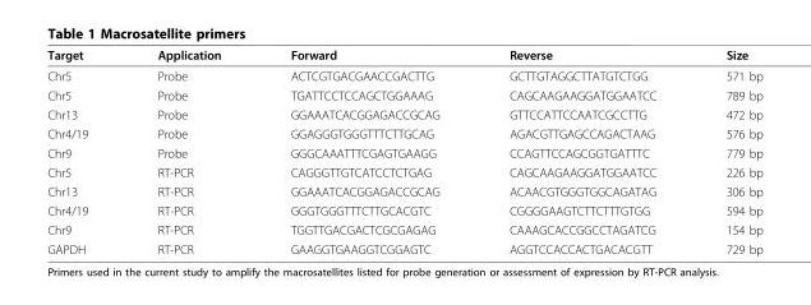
<table><thead><tr><td>Target</td><td>Application</td><td>Forward</td><td>Reverse</td><td>Size</td></tr></thead><tbody><tr><td>Chr5</td><td>Probe</td><td>ACTCGTGACGAACCGACTTG</td><td>GCTTGTAGGCTTATGTCTGG</td><td>571 bp</td></tr><tr><td>Chr5</td><td>Probe</td><td>TGATTCCTCCAGCTGGAAAG</td><td>CAGCAAGAAGGATGGAATCC</td><td>789 bp</td></tr><tr><td>Chr13</td><td>Probe</td><td>GGAAATCACGGAGACCGCAG</td><td>GTTCCATTCCAATCGCCTTG</td><td>472 bp</td></tr><tr><td>Chr4/19</td><td>Probe</td><td>GGAGGGTGGGTTTCTTGCAG</td><td>AGACGTTGAGCCAGACTAAG</td><td>576 bp</td></tr><tr><td>Chr9</td><td>Probe</td><td>GGGCAAATTTCGAGTGAAGG</td><td>CCAGTTCCAGCGGTGATTTC</td><td>779 bp</td></tr><tr><td>Chr5</td><td>RT-PCR</td><td>CAGGGTTGTCATCCTCTGAG</td><td>CAGCAAGAAGGATGGAATCC</td><td>226 bp</td></tr><tr><td>Chr13</td><td>RT-PCR</td><td>GGAAATCACGGAGACCGCAG</td><td>ACAACGTGGGTGGCAGATAG</td><td>306 bp</td></tr><tr><td>Chr4/19</td><td>RT-PCR</td><td>GGGTGGGTTTCTTGCACGTC</td><td>CGGGGAAGTCTTCTTTGTGG</td><td>594 bp</td></tr><tr><td>Chr9</td><td>RT-PCR</td><td>TGGTTGACGACTCGCGAGAG</td><td>CAAAGCACCGGCCTAGATCG</td><td>154 bp</td></tr><tr><td>GAPDH</td><td>RT-PCR</td><td>GAAGGTGAAGGTCGGAGTC</td><td>AGGTCCACCACTGACACGTT</td><td>729 bp</td></tr></tbody></table>